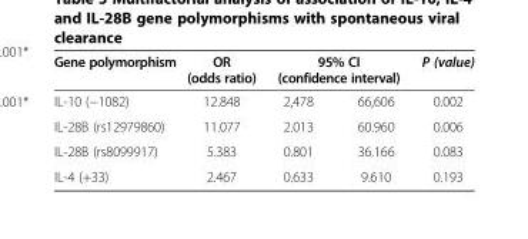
<table><thead><tr><td rowspan="2">Gene polymorphism IL-10 (−1082)</td><td rowspan="2">OR (odds ratio) 12.848</td><td colspan="2">95% CI (confidence interval)</td><td rowspan="2">P (value) 0.002</td></tr><tr><td>2,478</td><td>66,606</td></tr></thead><tbody><tr><td>IL-28B (rs12979860)</td><td>11.077</td><td>2.013</td><td>60.960</td><td>0.006</td></tr><tr><td>IL-28B (rs8099917)</td><td>5.383</td><td>0.801</td><td>36.166</td><td>0.083</td></tr><tr><td>IL-4 (+33)</td><td>2.467</td><td>0.633</td><td>9.610</td><td>0.193</td></tr></tbody></table>